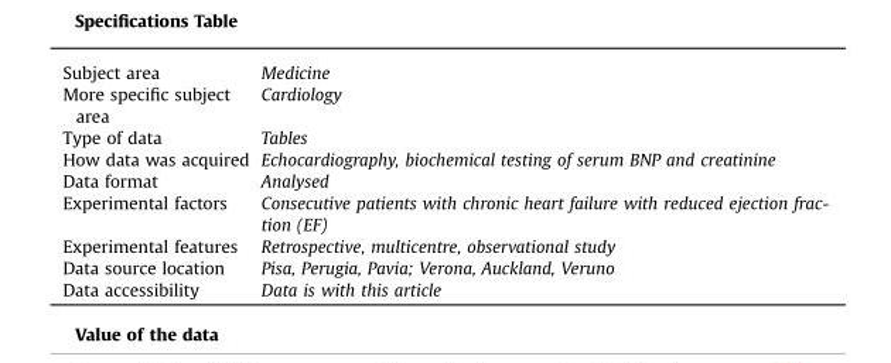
<table><tbody><tr><td>Subject area</td><td>Medicine</td></tr><tr><td>More specific subject area</td><td>Cardiology</td></tr><tr><td>Type of data</td><td>Tables</td></tr><tr><td>How data was acquired</td><td>Echocardiography, biochemical testing of serum BNP and creatinine</td></tr><tr><td>Data format</td><td>Analysed</td></tr><tr><td>Experimental factors</td><td>Consecutive patients with chronic heart failure with reduced ejection frac- tion (EF)</td></tr><tr><td>Experimental features</td><td>Retrospective, multicentre, observational study</td></tr><tr><td>Data source location</td><td>Pisa, Perugia, Pavia; Verona, Auckland, Veruno</td></tr><tr><td>Data accessibility</td><td>Data is with this article</td></tr></tbody></table>